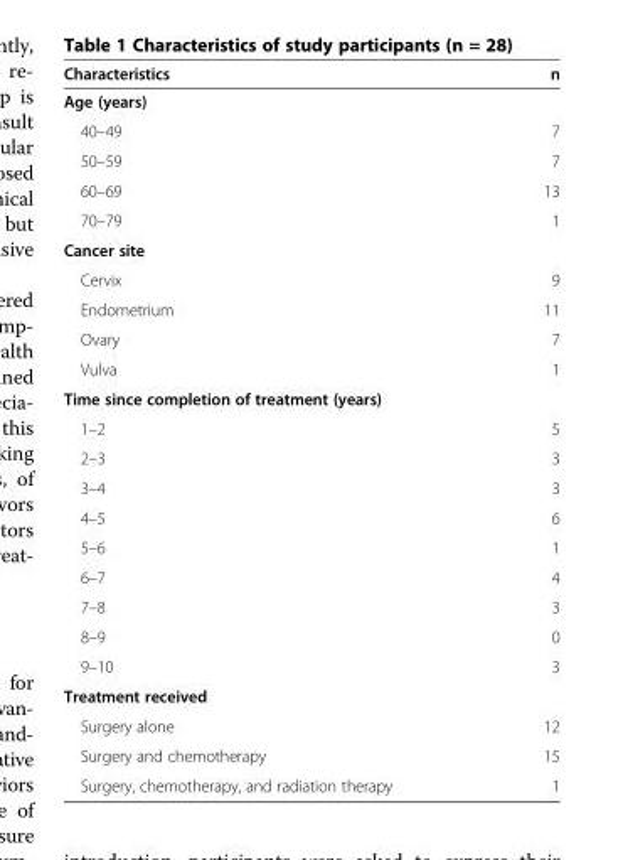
<table><thead><tr><td>Characteristics</td><td>n</td></tr></thead><tbody><tr><td colspan="2">Age (years)</td></tr><tr><td>40–49</td><td>7</td></tr><tr><td>50–59</td><td>7</td></tr><tr><td>60–69</td><td>13</td></tr><tr><td>70–79</td><td>1</td></tr><tr><td colspan="2">Cancer site</td></tr><tr><td>Cervix</td><td>9</td></tr><tr><td>Endometrium</td><td>11</td></tr><tr><td>Ovary</td><td>7</td></tr><tr><td>Vulva</td><td>1</td></tr><tr><td colspan="2">Time since completion of treatment (years)</td></tr><tr><td>1–2</td><td>5</td></tr><tr><td>2–3</td><td>3</td></tr><tr><td>3–4</td><td>3</td></tr><tr><td>4–5</td><td>6</td></tr><tr><td>5–6</td><td>1</td></tr><tr><td>6–7</td><td>4</td></tr><tr><td>7–8</td><td>3</td></tr><tr><td>8–9</td><td>0</td></tr><tr><td>9–10</td><td>3</td></tr><tr><td colspan="2">Treatment received</td></tr><tr><td>Surgery alone</td><td>12</td></tr><tr><td>Surgery and chemotherapy</td><td>15</td></tr><tr><td>Surgery, chemotherapy, and radiation therapy</td><td>1</td></tr></tbody></table>